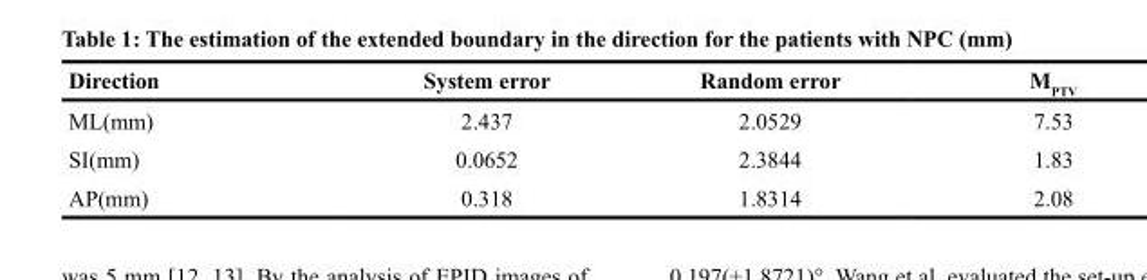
<table><thead><tr><td>Direction</td><td>System error</td><td>Random error</td><td>M<sub>PTV</sub></td></tr></thead><tbody><tr><td>ML(mm)</td><td>2.437</td><td>2.0529</td><td>7.53</td></tr><tr><td>SI(mm)</td><td>0.0652</td><td>2.3844</td><td>1.83</td></tr><tr><td>AP(mm)</td><td>0.318</td><td>1.8314</td><td>2.08</td></tr></tbody></table>